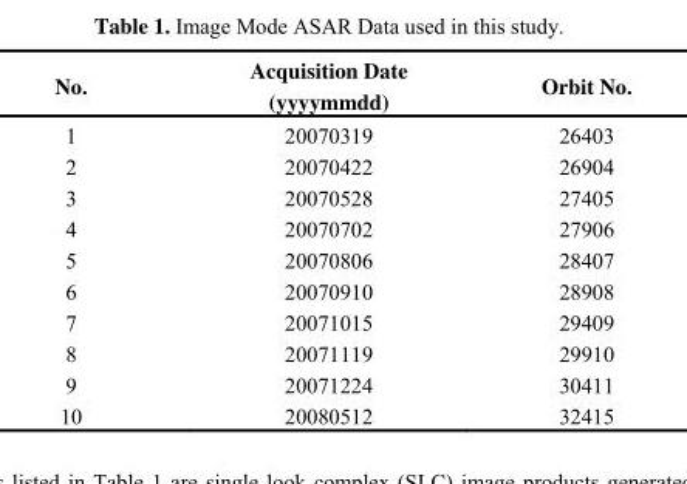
<table><thead><tr><td>No.</td><td>Acquisition Date (yyyymmdd)</td><td>Orbit No.</td></tr></thead><tbody><tr><td>1</td><td>20070319</td><td>26403</td></tr><tr><td>2</td><td>20070422</td><td>26904</td></tr><tr><td>3</td><td>20070528</td><td>27405</td></tr><tr><td>4</td><td>20070702</td><td>27906</td></tr><tr><td>5</td><td>20070806</td><td>28407</td></tr><tr><td>6</td><td>20070910</td><td>28908</td></tr><tr><td>7</td><td>20071015</td><td>29409</td></tr><tr><td>8</td><td>20071119</td><td>29910</td></tr><tr><td>9</td><td>20071224</td><td>30411</td></tr><tr><td>10</td><td>20080512</td><td>32415</td></tr></tbody></table>